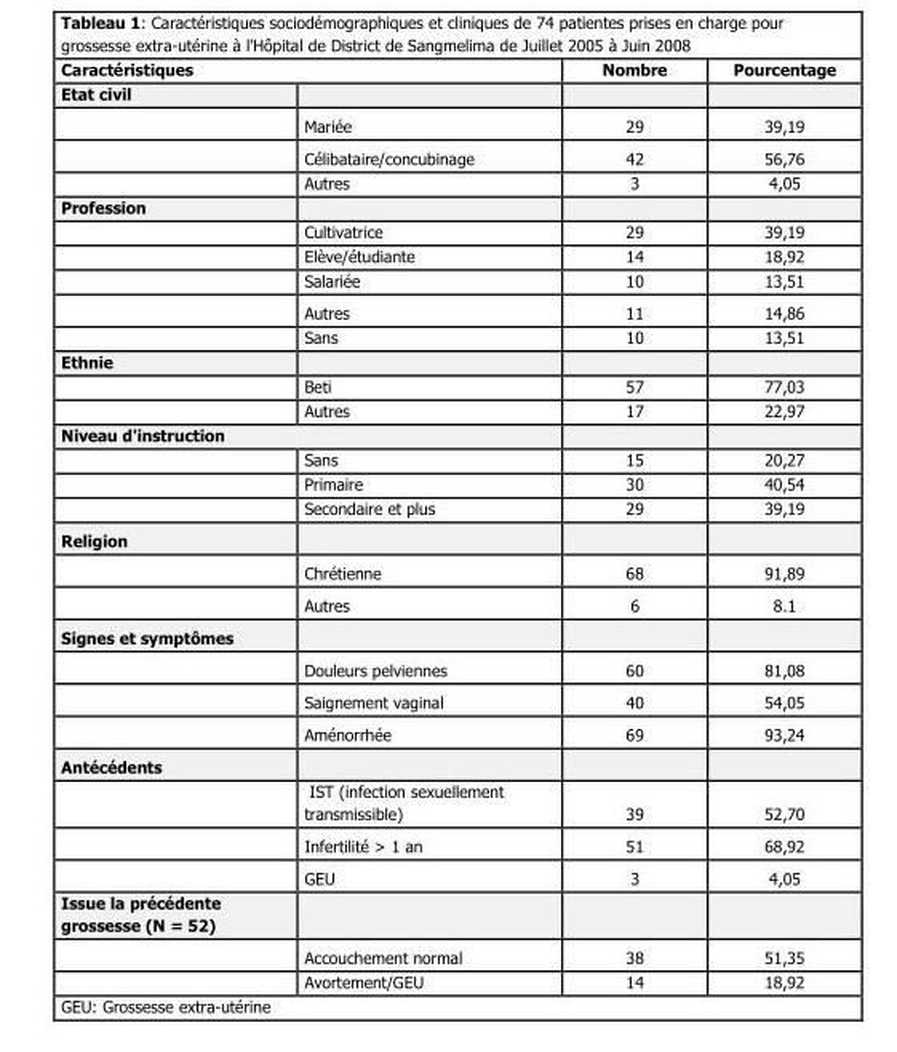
<table><thead><tr><td>Caractéristiques</td><td></td><td>Nombre</td><td>Pourcentage</td></tr></thead><tbody><tr><td colspan="4">Etat civil</td></tr><tr><td></td><td>Mariée</td><td>29</td><td>39,19</td></tr><tr><td></td><td>Célibataire/concubinage</td><td>42</td><td>56,76</td></tr><tr><td></td><td>Autres</td><td>3</td><td>4,05</td></tr><tr><td colspan="4">Profession</td></tr><tr><td></td><td>Cultivatrice</td><td>29</td><td>39,19</td></tr><tr><td></td><td>Elève/étudiante</td><td>14</td><td>18,92</td></tr><tr><td></td><td>Salariée</td><td>10</td><td>13,51</td></tr><tr><td></td><td>Autres</td><td>11</td><td>14,86</td></tr><tr><td></td><td>Sans</td><td>10</td><td>13,51</td></tr><tr><td colspan="4">Ethnie</td></tr><tr><td></td><td>Beti</td><td>57</td><td>77,03</td></tr><tr><td></td><td>Autres</td><td>17</td><td>22,97</td></tr><tr><td colspan="4">Niveau d&#x27;instruction</td></tr><tr><td></td><td>Sans</td><td>15</td><td>20,27</td></tr><tr><td></td><td>Primaire</td><td>30</td><td>40,54</td></tr><tr><td></td><td>Secondaire et plus</td><td>29</td><td>39,19</td></tr><tr><td colspan="4">Religion</td></tr><tr><td></td><td>Chrétienne</td><td>68</td><td>91,89</td></tr><tr><td></td><td>Autres</td><td>6</td><td>8.1</td></tr><tr><td colspan="4">Signes et symptômes</td></tr><tr><td></td><td>Douleurs pelviennes</td><td>60</td><td>81,08</td></tr><tr><td></td><td>Saignement vaginal</td><td>40</td><td>54,05</td></tr><tr><td></td><td>Aménorrhée</td><td>69</td><td>93,24</td></tr><tr><td colspan="4">Antécédents</td></tr><tr><td></td><td>IST (infection sexuellement transmissible)</td><td>39</td><td>52,70</td></tr><tr><td></td><td>Infertilité &gt; 1 an</td><td>51</td><td>68,92</td></tr><tr><td></td><td>GEU</td><td>3</td><td>4,05</td></tr><tr><td colspan="4">Issue la précédente grossesse (N = 52)</td></tr><tr><td></td><td>Accouchement normal</td><td>38</td><td>51,35</td></tr><tr><td></td><td>Avortement/GEU</td><td>14</td><td>18,92</td></tr></tbody></table>